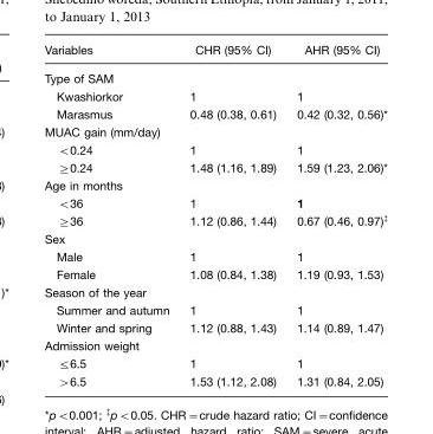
<table><thead><tr><td>Variables</td><td>CHR (95% CI)</td><td>AHR (95% CI)</td></tr></thead><tbody><tr><td colspan="3">Type of SAM</td></tr><tr><td>Kwashiorkor</td><td>1</td><td>1</td></tr><tr><td>Marasmus</td><td>0.48 (0.38, 0.61)</td><td>0.42 (0.32, 0.56)*</td></tr><tr><td colspan="3">MUAC gain (mm/day)</td></tr><tr><td>&lt;0.24</td><td>1</td><td>1</td></tr><tr><td>≥0.24</td><td>1.48 (1.16, 1.89)</td><td>1.59 (1.23, 2.06)*</td></tr><tr><td colspan="3">Age in months</td></tr><tr><td>&lt;36</td><td>1</td><td>1</td></tr><tr><td>≥36</td><td>1.12 (0.86, 1.44)</td><td>0.67 (0.46, 0.97)‡</td></tr><tr><td colspan="3">Sex</td></tr><tr><td>Male</td><td>1</td><td>1</td></tr><tr><td>Female</td><td>1.08 (0.84, 1.38)</td><td>1.19 (0.93, 1.53)</td></tr><tr><td colspan="3">Season of the year</td></tr><tr><td>Summer and autumn</td><td>1</td><td>1</td></tr><tr><td>Winter and spring</td><td>1.12 (0.88, 1.43)</td><td>1.14 (0.89, 1.47)</td></tr><tr><td colspan="3">Admission weight</td></tr><tr><td>≤6.5</td><td>1</td><td>1</td></tr><tr><td>&gt;6.5</td><td>1.53 (1.12, 2.08)</td><td>1.31 (0.84, 2.05)</td></tr></tbody></table>